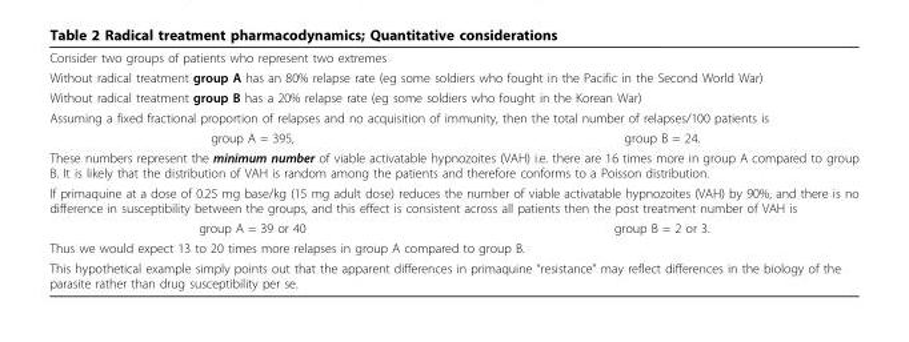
<table><tbody><tr><td colspan="2">Consider two groups of patients who represent two extremes</td></tr><tr><td colspan="2">Without radical treatment group A has an 80% relapse rate (eg some soldiers who fought in the Pacific in the Second World War)</td></tr><tr><td colspan="2">Without radical treatment group B has a 20% relapse rate (eg some soldiers who fought in the Korean War)</td></tr><tr><td colspan="2">Assuming a fixed fractional proportion of relapses and no acquisition of immunity, then the total number of relapses/100 patients is</td></tr><tr><td>group A = 395,</td><td>group B = 24.</td></tr><tr><td colspan="2">These numbers represent the minimum number of viable activatable hypnozoites (VAH) i.e. there are 16 times more in group A compared to group B. It is likely that the distribution of VAH is random among the patients and therefore conforms to a Poisson distribution.</td></tr><tr><td colspan="2">If primaquine at a dose of 0.25 mg base/kg (15 mg adult dose) reduces the number of viable activatable hypnozoites (VAH) by 90%, and there is no difference in susceptibility between the groups, and this effect is consistent across all patients then the post treatment number of VAH is</td></tr><tr><td>group A = 39 or 40</td><td>group B = 2 or 3.</td></tr><tr><td colspan="2">Thus we would expect 13 to 20 times more relapses in group A compared to group B.</td></tr><tr><td colspan="2">This hypothetical example simply points out that the apparent differences in primaquine “resistance” may reflect differences in the biology of the parasite rather than drug susceptibility per se.</td></tr></tbody></table>